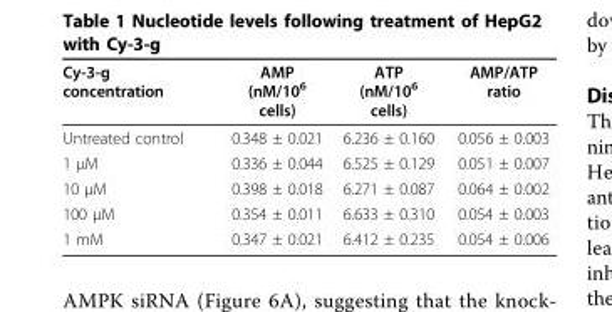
<table><thead><tr><td>Cy-3-g concentration</td><td>AMP (nM/10<sup>6</sup> cells)</td><td>ATP (nM/10<sup>6</sup> cells)</td><td>AMP/ATP ratio</td></tr></thead><tbody><tr><td>Untreated control</td><td>0.348 ± 0.021</td><td>6.236 ± 0.160</td><td>0.056 ± 0.003</td></tr><tr><td>1 μM</td><td>0.336 ± 0.044</td><td>6.525 ± 0.129</td><td>0.051 ± 0.007</td></tr><tr><td>10 μM</td><td>0.398 ± 0.018</td><td>6.271 ± 0.087</td><td>0.064 ± 0.002</td></tr><tr><td>100 μM</td><td>0.354 ± 0.011</td><td>6.633 ± 0.310</td><td>0.054 ± 0.003</td></tr><tr><td>1 mM</td><td>0.347 ± 0.021</td><td>6.412 ± 0.235</td><td>0.054 ± 0.006</td></tr></tbody></table>